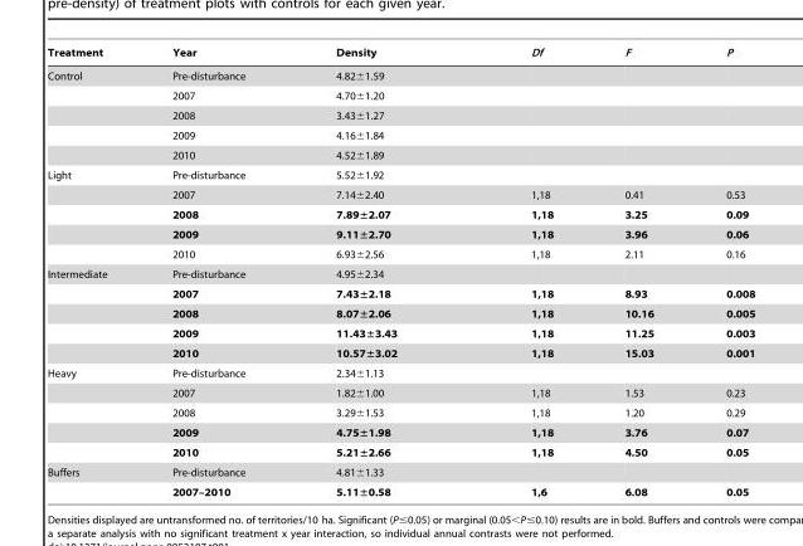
<table><thead><tr><td>Treatment</td><td>Year</td><td>Density</td><td>Df</td><td>F</td><td>P</td></tr></thead><tbody><tr><td rowspan="5">Control</td><td>Pre-disturbance</td><td>4.82±1.59</td><td></td><td></td><td></td></tr><tr><td>2007</td><td>4.70±1.20</td><td></td><td></td><td></td></tr><tr><td>2008</td><td>3.43±1.27</td><td></td><td></td><td></td></tr><tr><td>2009</td><td>4.16±1.84</td><td></td><td></td><td></td></tr><tr><td>2010</td><td>4.52±1.89</td><td></td><td></td><td></td></tr><tr><td rowspan="5">Light</td><td>Pre-disturbance</td><td>5.52±1.92</td><td></td><td></td><td></td></tr><tr><td>2007</td><td>7.14±2.40</td><td>1,18</td><td>0.41</td><td>0.53</td></tr><tr><td>2008</td><td>7.89±2.07</td><td>1,18</td><td>3.25</td><td>0.09</td></tr><tr><td>2009</td><td>9.11±2.70</td><td>1,18</td><td>3.96</td><td>0.06</td></tr><tr><td>2010</td><td>6.93±2.56</td><td>1,18</td><td>2.11</td><td>0.16</td></tr><tr><td rowspan="5">Intermediate</td><td>Pre-disturbance</td><td>4.95±2.34</td><td></td><td></td><td></td></tr><tr><td>2007</td><td>7.43±2.18</td><td>1,18</td><td>8.93</td><td>0.008</td></tr><tr><td>2008</td><td>8.07±2.06</td><td>1,18</td><td>10.16</td><td>0.005</td></tr><tr><td>2009</td><td>11.43±3.43</td><td>1,18</td><td>11.25</td><td>0.003</td></tr><tr><td>2010</td><td>10.57±3.02</td><td>1,18</td><td>15.03</td><td>0.001</td></tr><tr><td rowspan="5">Heavy</td><td>Pre-disturbance</td><td>2.34±1.13</td><td></td><td></td><td></td></tr><tr><td>2007</td><td>1.82±1.00</td><td>1,18</td><td>1.53</td><td>0.23</td></tr><tr><td>2008</td><td>3.29±1.53</td><td>1,18</td><td>1.20</td><td>0.29</td></tr><tr><td>2009</td><td>4.75±1.98</td><td>1,18</td><td>3.76</td><td>0.07</td></tr><tr><td>2010</td><td>5.21±2.66</td><td>1,18</td><td>4.50</td><td>0.05</td></tr><tr><td rowspan="2">Buffers</td><td>Pre-disturbance</td><td>4.81±1.33</td><td></td><td></td><td></td></tr><tr><td>2007–2010</td><td>5.11±0.58</td><td>1,6</td><td>6.08</td><td>0.05</td></tr></tbody></table>